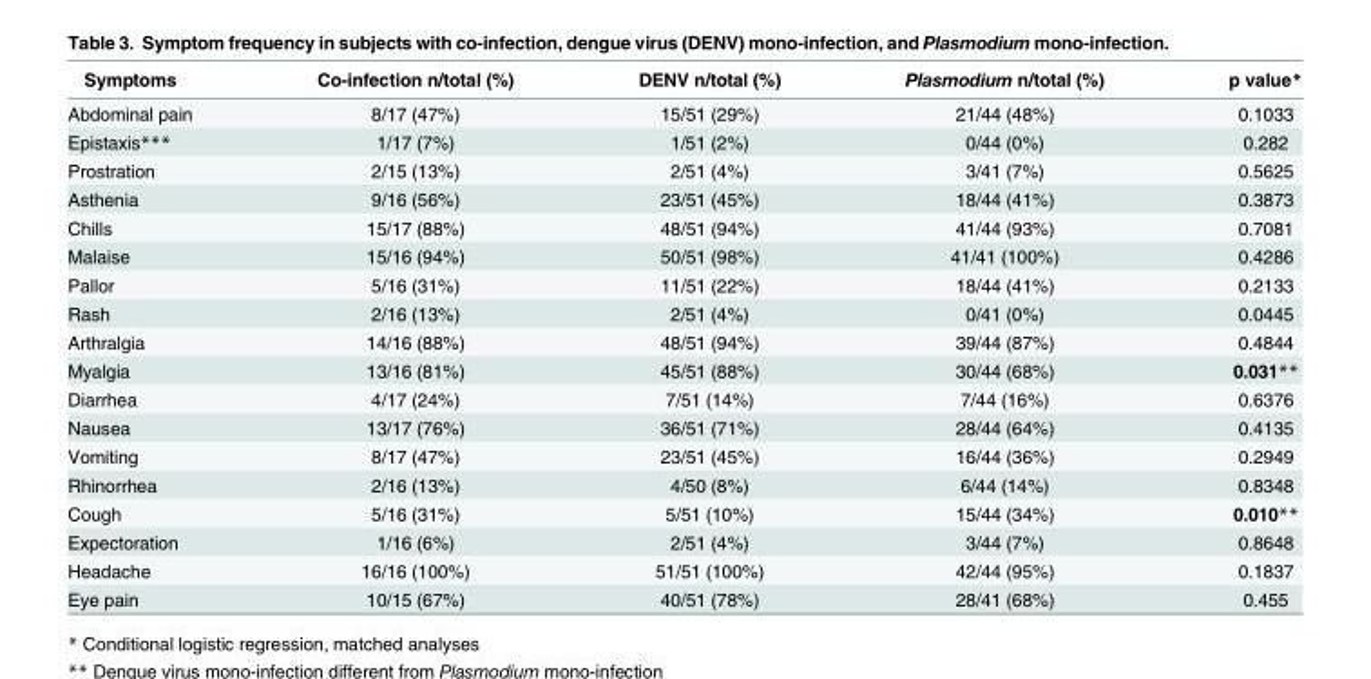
<table><thead><tr><td>Symptoms</td><td>Co-infection n/total (%)</td><td>DENV n/total (%)</td><td>Plasmodium n/total (%)</td><td>p value*</td></tr></thead><tbody><tr><td>Abdominal pain</td><td>8/17 (47%)</td><td>15/51 (29%)</td><td>21/44 (48%)</td><td>0.1033</td></tr><tr><td>Epistaxis***</td><td>1/17 (7%)</td><td>1/51 (2%)</td><td>0/44 (0%)</td><td>0.282</td></tr><tr><td>Prostration</td><td>2/15 (13%)</td><td>2/51 (4%)</td><td>3/41 (7%)</td><td>0.5625</td></tr><tr><td>Asthenia</td><td>9/16 (56%)</td><td>23/51 (45%)</td><td>18/44 (41%)</td><td>0.3873</td></tr><tr><td>Chills</td><td>15/17 (88%)</td><td>48/51 (94%)</td><td>41/44 (93%)</td><td>0.7081</td></tr><tr><td>Malaise</td><td>15/16 (94%)</td><td>50/51 (98%)</td><td>41/41 (100%)</td><td>0.4286</td></tr><tr><td>Pallor</td><td>5/16 (31%)</td><td>11/51 (22%)</td><td>18/44 (41%)</td><td>0.2133</td></tr><tr><td>Rash</td><td>2/16 (13%)</td><td>2/51 (4%)</td><td>0/41 (0%)</td><td>0.0445</td></tr><tr><td>Arthralgia</td><td>14/16 (88%)</td><td>48/51 (94%)</td><td>39/44 (87%)</td><td>0.4844</td></tr><tr><td>Myalgia</td><td>13/16 (81%)</td><td>45/51 (88%)</td><td>30/44 (68%)</td><td>0.031**</td></tr><tr><td>Diarrhea</td><td>4/17 (24%)</td><td>7/51 (14%)</td><td>7/44 (16%)</td><td>0.6376</td></tr><tr><td>Nausea</td><td>13/17 (76%)</td><td>36/51 (71%)</td><td>28/44 (64%)</td><td>0.4135</td></tr><tr><td>Vomiting</td><td>8/17 (47%)</td><td>23/51 (45%)</td><td>16/44 (36%)</td><td>0.2949</td></tr><tr><td>Rhinorrhea</td><td>2/16 (13%)</td><td>4/50 (8%)</td><td>6/44 (14%)</td><td>0.8348</td></tr><tr><td>Cough</td><td>5/16 (31%)</td><td>5/51 (10%)</td><td>15/44 (34%)</td><td>0.010**</td></tr><tr><td>Expectoration</td><td>1/16 (6%)</td><td>2/51 (4%)</td><td>3/44 (7%)</td><td>0.8648</td></tr><tr><td>Headache</td><td>16/16 (100%)</td><td>51/51 (100%)</td><td>42/44 (95%)</td><td>0.1837</td></tr><tr><td>Eye pain</td><td>10/15 (67%)</td><td>40/51 (78%)</td><td>28/41 (68%)</td><td>0.455</td></tr></tbody></table>